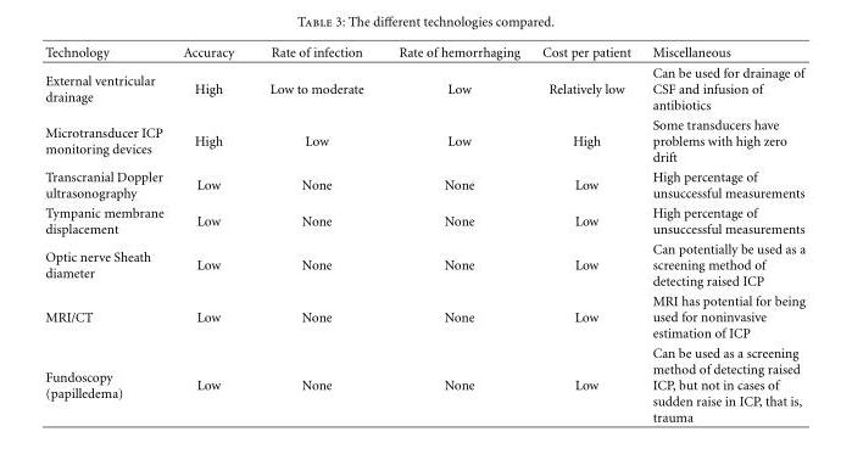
<table><thead><tr><td>Technology</td><td>Accuracy</td><td>Rate of infection</td><td>Rate of hemorrhaging</td><td>Cost per patient</td><td>Miscellaneous</td></tr></thead><tbody><tr><td>External ventricular drainage</td><td>High</td><td>Low to moderate</td><td>Low</td><td>Relatively low</td><td>Can be used for drainage of CSF and infusion of antibiotics</td></tr><tr><td>Microtransducer ICP monitoring devices</td><td>High</td><td>Low</td><td>Low</td><td>High</td><td>Some transducers have problems with high zero drift</td></tr><tr><td>Transcranial Doppler ultrasonography</td><td>Low</td><td>None</td><td>None</td><td>Low</td><td>High percentage of unsuccessful measurements</td></tr><tr><td>Tympanic membrane displacement</td><td>Low</td><td>None</td><td>None</td><td>Low</td><td>High percentage of unsuccessful measurements</td></tr><tr><td>Optic nerve Sheath diameter</td><td>Low</td><td>None</td><td>None</td><td>Low</td><td>Can potentially be used as a screening method of detecting raised ICP</td></tr><tr><td>MRI/CT</td><td>Low</td><td>None</td><td>None</td><td>Low</td><td>MRI has potential for being used for noninvasive estimation of ICP</td></tr><tr><td>Fundoscopy (papilledema)</td><td>Low</td><td>None</td><td>None</td><td>Low</td><td>Can be used as a screening method of detecting raised ICP, but not in cases of sudden raise in ICP, that is, trauma</td></tr></tbody></table>